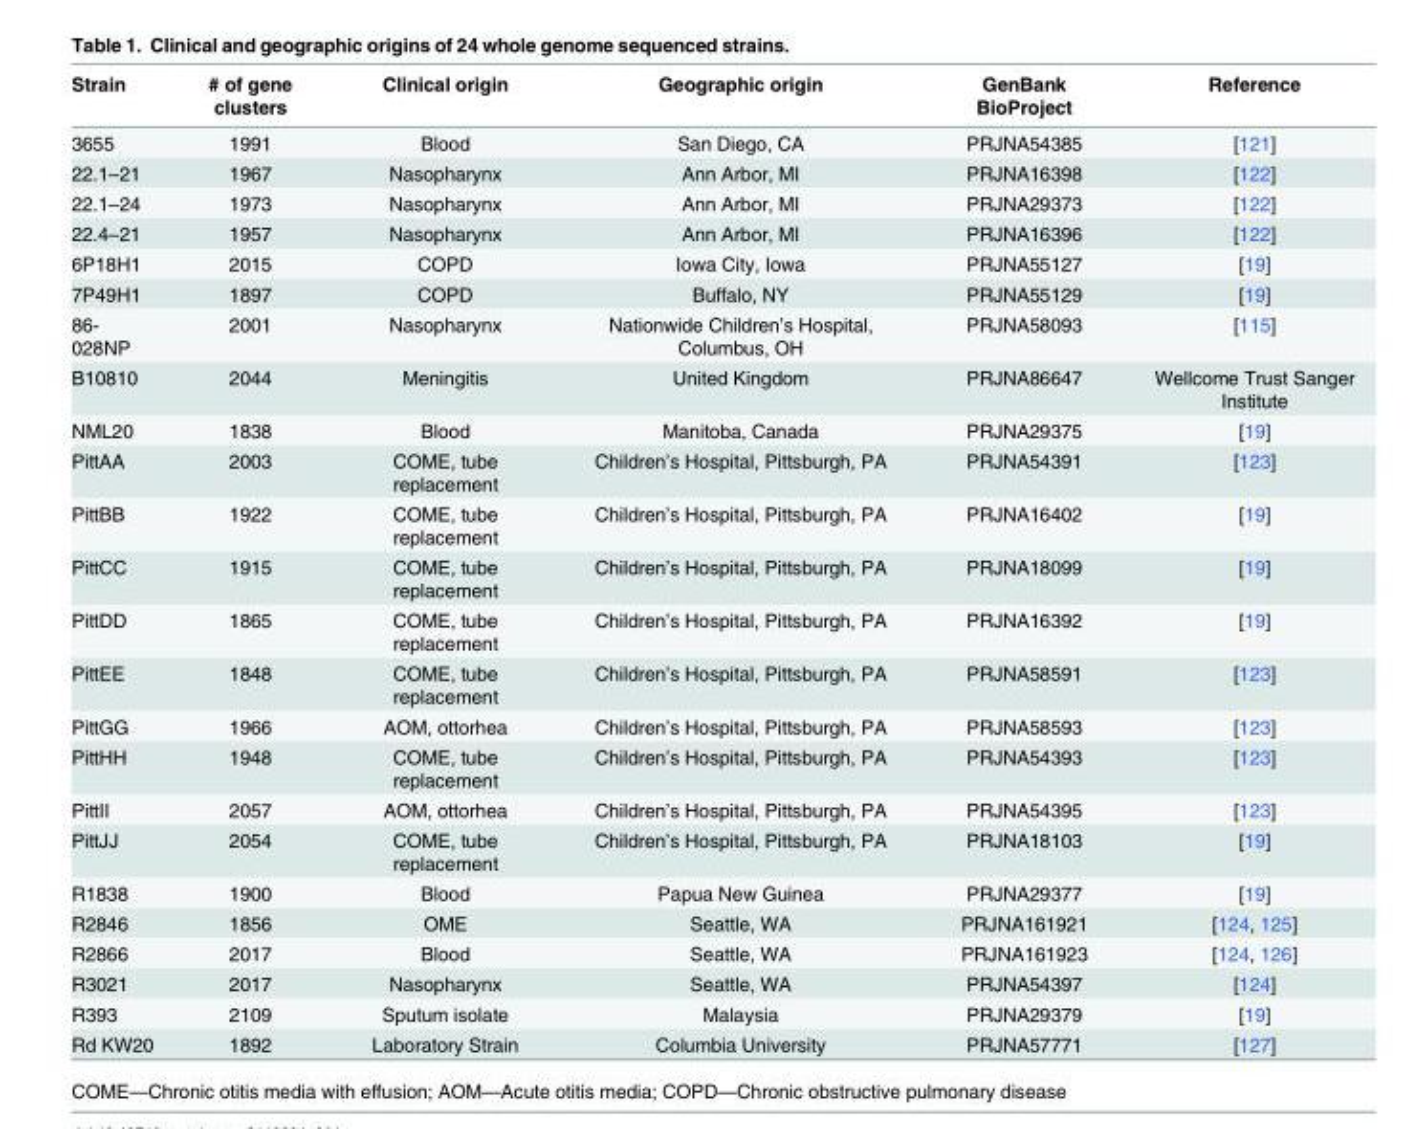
<table><thead><tr><td>Strain</td><td># of gene clusters</td><td>Clinical origin</td><td>Geographic origin</td><td>GenBank BioProject</td><td>Reference</td></tr></thead><tbody><tr><td>3655</td><td>1991</td><td>Blood</td><td>San Diego, CA</td><td>PRJNA54385</td><td>[121]</td></tr><tr><td>22.1–21</td><td>1967</td><td>Nasopharynx</td><td>Ann Arbor, MI</td><td>PRJNA16398</td><td>[122]</td></tr><tr><td>22.1–24</td><td>1973</td><td>Nasopharynx</td><td>Ann Arbor, MI</td><td>PRJNA29373</td><td>[122]</td></tr><tr><td>22.4–21</td><td>1957</td><td>Nasopharynx</td><td>Ann Arbor, MI</td><td>PRJNA16396</td><td>[122]</td></tr><tr><td>6P18H1</td><td>2015</td><td>COPD</td><td>Iowa City, Iowa</td><td>PRJNA55127</td><td>[19]</td></tr><tr><td>7P49H1</td><td>1897</td><td>COPD</td><td>Buffalo, NY</td><td>PRJNA55129</td><td>[19]</td></tr><tr><td>86- 028NP</td><td>2001</td><td>Nasopharynx</td><td>Nationwide Children’s Hospital, Columbus, OH</td><td>PRJNA58093</td><td>[115]</td></tr><tr><td>B10810</td><td>2044</td><td>Meningitis</td><td>United Kingdom</td><td>PRJNA86647</td><td>Wellcome Trust Sanger Institute</td></tr><tr><td>NML20</td><td>1838</td><td>Blood</td><td>Manitoba, Canada</td><td>PRJNA29375</td><td>[19]</td></tr><tr><td>PittAA</td><td>2003</td><td>COME, tube replacement</td><td>Children’s Hospital, Pittsburgh, PA</td><td>PRJNA54391</td><td>[123]</td></tr><tr><td>PittBB</td><td>1922</td><td>COME, tube replacement</td><td>Children’s Hospital, Pittsburgh, PA</td><td>PRJNA16402</td><td>[19]</td></tr><tr><td>PittCC</td><td>1915</td><td>COME, tube replacement</td><td>Children’s Hospital, Pittsburgh, PA</td><td>PRJNA18099</td><td>[19]</td></tr><tr><td>PittDD</td><td>1865</td><td>COME, tube replacement</td><td>Children’s Hospital, Pittsburgh, PA</td><td>PRJNA16392</td><td>[19]</td></tr><tr><td>PittEE</td><td>1848</td><td>COME, tube replacement</td><td>Children’s Hospital, Pittsburgh, PA</td><td>PRJNA58591</td><td>[123]</td></tr><tr><td>PittGG</td><td>1966</td><td>AOM, ottorhea</td><td>Children’s Hospital, Pittsburgh, PA</td><td>PRJNA58593</td><td>[123]</td></tr><tr><td>PittHH</td><td>1948</td><td>COME, tube replacement</td><td>Children’s Hospital, Pittsburgh, PA</td><td>PRJNA54393</td><td>[123]</td></tr><tr><td>PittII</td><td>2057</td><td>AOM, ottorhea</td><td>Children’s Hospital, Pittsburgh, PA</td><td>PRJNA54395</td><td>[123]</td></tr><tr><td>PittJJ</td><td>2054</td><td>COME, tube replacement</td><td>Children’s Hospital, Pittsburgh, PA</td><td>PRJNA18103</td><td>[19]</td></tr><tr><td>R1838</td><td>1900</td><td>Blood</td><td>Papua New Guinea</td><td>PRJNA29377</td><td>[19]</td></tr><tr><td>R2846</td><td>1856</td><td>OME</td><td>Seattle, WA</td><td>PRJNA161921</td><td>[124, 125]</td></tr><tr><td>R2866</td><td>2017</td><td>Blood</td><td>Seattle, WA</td><td>PRJNA161923</td><td>[124, 126]</td></tr><tr><td>R3021</td><td>2017</td><td>Nasopharynx</td><td>Seattle, WA</td><td>PRJNA54397</td><td>[124]</td></tr><tr><td>R393</td><td>2109</td><td>Sputum isolate</td><td>Malaysia</td><td>PRJNA29379</td><td>[19]</td></tr><tr><td>Rd KW20</td><td>1892</td><td>Laboratory Strain</td><td>Columbia University</td><td>PRJNA57771</td><td>[127]</td></tr></tbody></table>